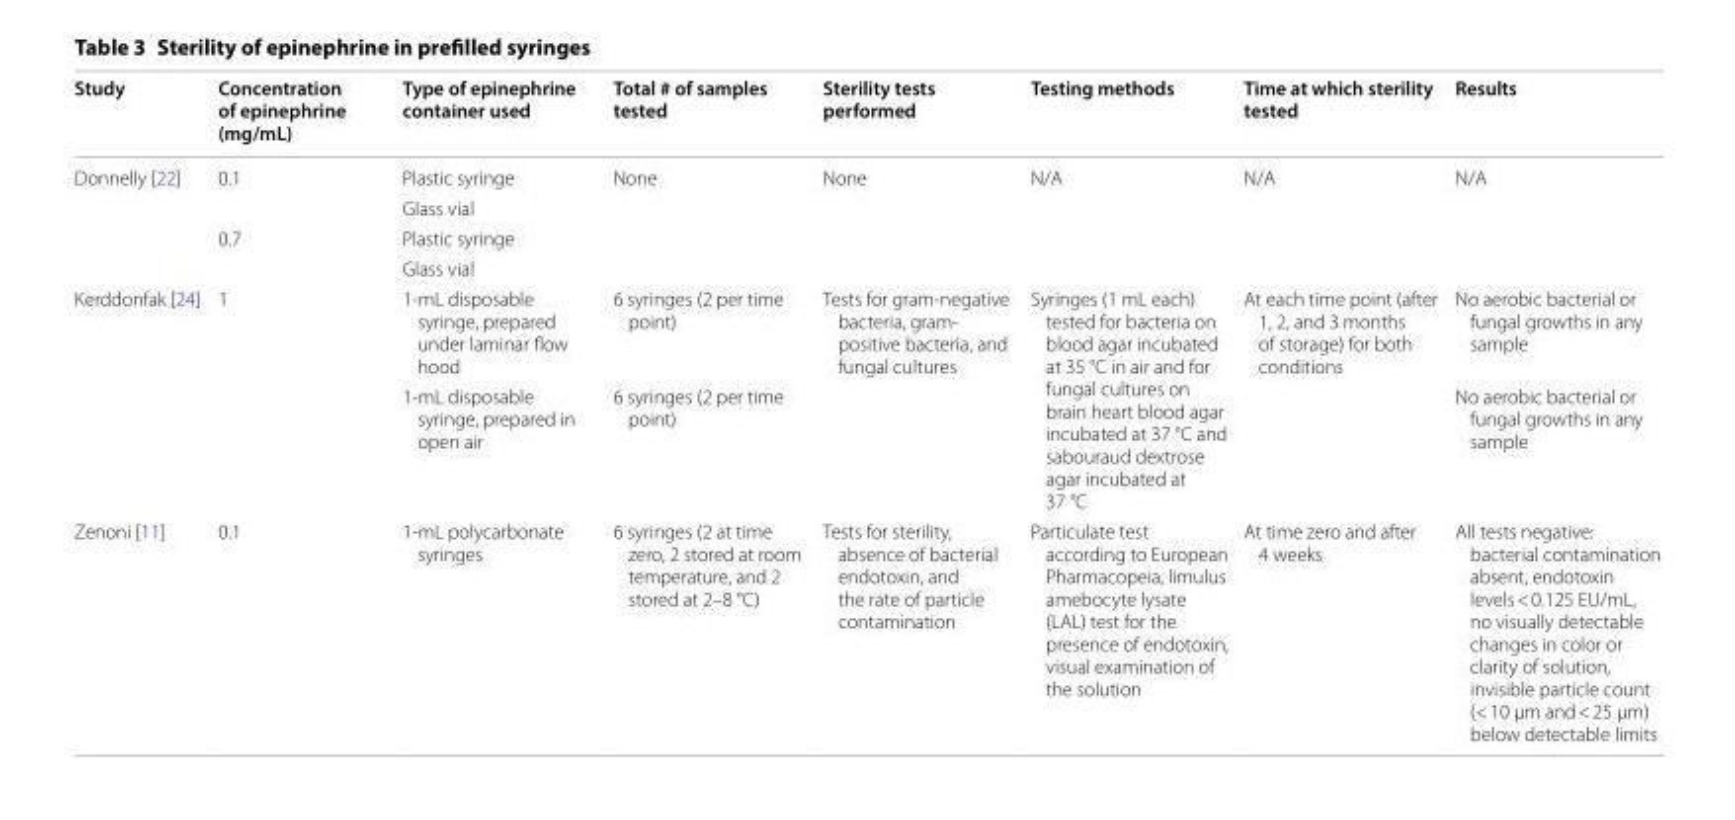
<table><thead><tr><td>Study</td><td>Concentration of epinephrine (mg/mL)</td><td>Type of epinephrine container used</td><td>Total # of samples tested</td><td>Sterility tests performed</td><td>Testing methods</td><td>Time at which sterility tested</td><td>Results</td></tr></thead><tbody><tr><td rowspan="4">Donnelly [22]</td><td rowspan="2">0.1</td><td>Plastic syringe</td><td rowspan="4">None</td><td rowspan="4">None</td><td rowspan="4">N/A</td><td rowspan="4">N/A</td><td rowspan="4">N/A</td></tr><tr><td>Glass vial</td></tr><tr><td rowspan="2">0.7</td><td>Plastic syringe</td></tr><tr><td>Glass vial</td></tr><tr><td rowspan="2">Kerddonfak [24]</td><td rowspan="2">1</td><td>1-mL disposable syringe, prepared under laminar flow hood</td><td>6 syringes (2 per time point)</td><td rowspan="2">Tests for gram-negative bacteria, gram- positive bacteria, and fungal cultures</td><td rowspan="2">Syringes (1 mL each) tested for bacteria on blood agar incubated at 35 °C in air and for fungal cultures on brain heart blood agar incubated at 37 °C and sabouraud dextrose agar incubated at 37 °C</td><td rowspan="2">At each time point (after 1, 2, and 3 months of storage) for both conditions</td><td>No aerobic bacterial or fungal growths in any sample</td></tr><tr><td>1-mL disposable syringe, prepared in open air</td><td>6 syringes (2 per time point)</td><td>No aerobic bacterial or fungal growths in any sample</td></tr><tr><td>Zenoni [11]</td><td>0.1</td><td>1-mL polycarbonate syringes</td><td>6 syringes (2 at time zero, 2 stored at room temperature, and 2 stored at 2–8 °C)</td><td>Tests for sterility, absence of bacterial endotoxin, and the rate of particle contamination</td><td>Particulate test according to European Pharmacopeia, limulus amebocyte lysate (LAL) test for the presence of endotoxin, visual examination of the solution</td><td>At time zero and after 4 weeks</td><td>All tests negative: bacterial contamination absent, endotoxin levels &lt; 0.125 EU/mL, no visually detectable changes in color or clarity of solution, invisible particle count (&lt; 10 μm and &lt; 25 μm) below detectable limits</td></tr></tbody></table>